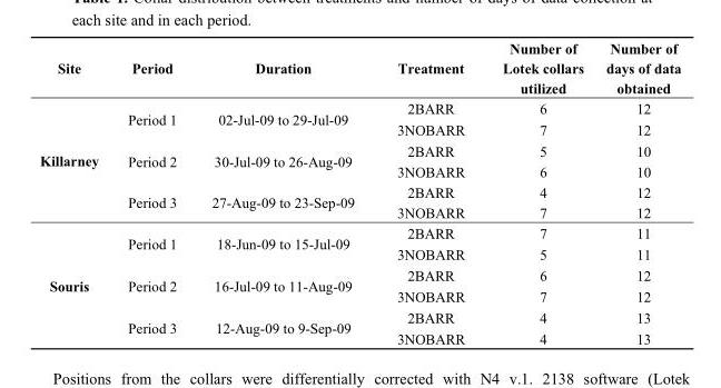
<table><thead><tr><td>Site</td><td>Period</td><td>Duration</td><td>Treatment</td><td>Number of Lotek collars utilized</td><td>Number of days of data obtained</td></tr></thead><tbody><tr><td rowspan="6">Killarney</td><td rowspan="2">Period 1</td><td rowspan="2">02-Jul-09 to 29-Jul-09</td><td>2BARR</td><td>6</td><td>12</td></tr><tr><td>3NOBARR</td><td>7</td><td>12</td></tr><tr><td rowspan="2">Period 2</td><td rowspan="2">30-Jul-09 to 26-Aug-09</td><td>2BARR</td><td>5</td><td>10</td></tr><tr><td>3NOBARR</td><td>6</td><td>10</td></tr><tr><td rowspan="2">Period 3</td><td rowspan="2">27-Aug-09 to 23-Sep-09</td><td>2BARR</td><td>4</td><td>12</td></tr><tr><td>3NOBARR</td><td>7</td><td>12</td></tr><tr><td rowspan="6">Souris</td><td rowspan="2">Period 1</td><td rowspan="2">18-Jun-09 to 15-Jul-09</td><td>2BARR</td><td>7</td><td>11</td></tr><tr><td>3NOBARR</td><td>5</td><td>11</td></tr><tr><td rowspan="2">Period 2</td><td rowspan="2">16-Jul-09 to 11-Aug-09</td><td>2BARR</td><td>6</td><td>12</td></tr><tr><td>3NOBARR</td><td>7</td><td>12</td></tr><tr><td rowspan="2">Period 3</td><td rowspan="2">12-Aug-09 to 9-Sep-09</td><td>2BARR</td><td>4</td><td>13</td></tr><tr><td>3NOBARR</td><td>4</td><td>13</td></tr></tbody></table>